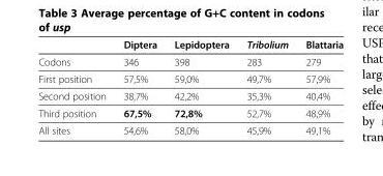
<table><thead><tr><td></td><td>Diptera</td><td>Lepidoptera</td><td>Tribolium</td><td>Blattaria</td></tr></thead><tbody><tr><td>Codons</td><td>346</td><td>398</td><td>283</td><td>279</td></tr><tr><td>First position</td><td>57,5%</td><td>59,0%</td><td>49,7%</td><td>57,9%</td></tr><tr><td>Second position</td><td>38,7%</td><td>42,2%</td><td>35,3%</td><td>40,4%</td></tr><tr><td>Third position</td><td>67,5%</td><td>72,8%</td><td>52,7%</td><td>48,9%</td></tr><tr><td>All sites</td><td>54,6%</td><td>58,0%</td><td>45,9%</td><td>49,1%</td></tr></tbody></table>